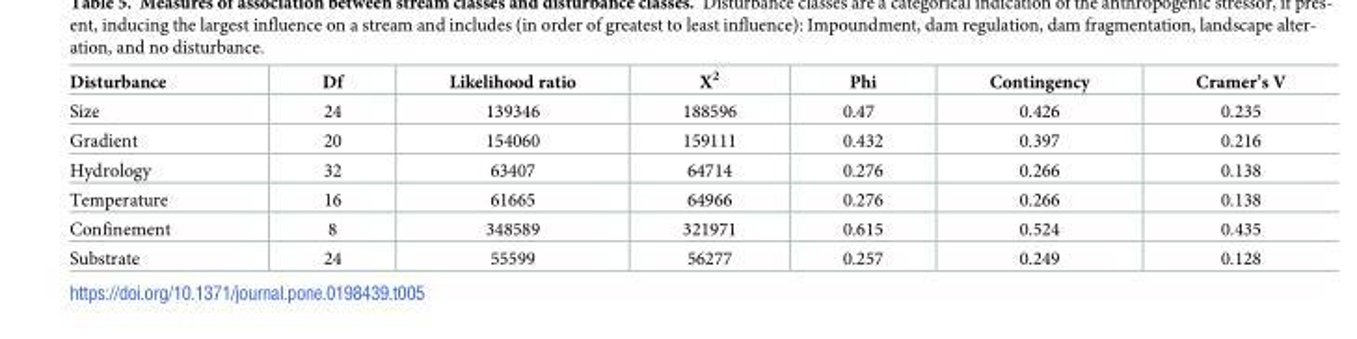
<table><thead><tr><td>Disturbance</td><td>Df</td><td>Likelihood ratio</td><td>X<sup>2</sup></td><td>Phi</td><td>Contingency</td><td>Cramer’s V</td></tr></thead><tbody><tr><td>Size</td><td>24</td><td>139346</td><td>188596</td><td>0.47</td><td>0.426</td><td>0.235</td></tr><tr><td>Gradient</td><td>20</td><td>154060</td><td>159111</td><td>0.432</td><td>0.397</td><td>0.216</td></tr><tr><td>Hydrology</td><td>32</td><td>63407</td><td>64714</td><td>0.276</td><td>0.266</td><td>0.138</td></tr><tr><td>Temperature</td><td>16</td><td>61665</td><td>64966</td><td>0.276</td><td>0.266</td><td>0.138</td></tr><tr><td>Confinement</td><td>8</td><td>348589</td><td>321971</td><td>0.615</td><td>0.524</td><td>0.435</td></tr><tr><td>Substrate</td><td>24</td><td>55599</td><td>56277</td><td>0.257</td><td>0.249</td><td>0.128</td></tr></tbody></table>